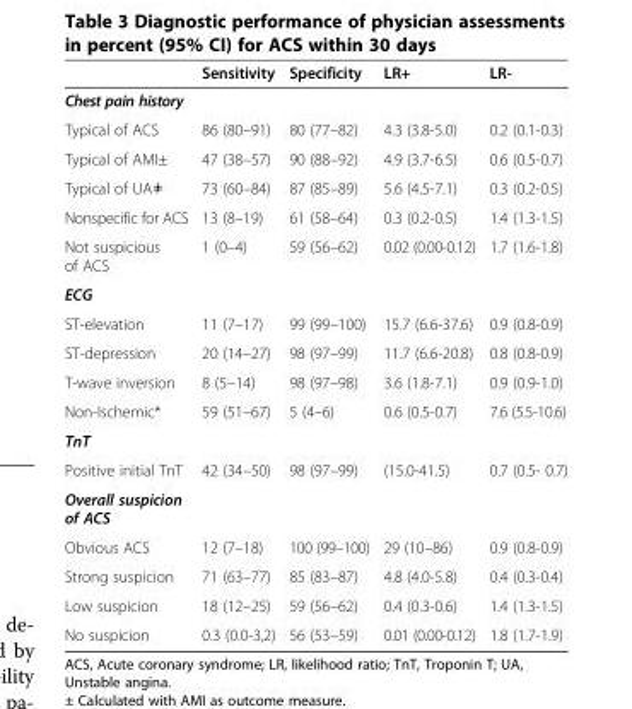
<table><thead><tr><td></td><td>Sensitivity</td><td>Specificity</td><td>LR+</td><td>LR-</td></tr></thead><tbody><tr><td colspan="5">Chest pain history</td></tr><tr><td>Typical of ACS</td><td>86 (80–91)</td><td>80 (77–82)</td><td>4.3 (3.8-5.0)</td><td>0.2 (0.1-0.3)</td></tr><tr><td>Typical of AMI±</td><td>47 (38–57)</td><td>90 (88–92)</td><td>4.9 (3.7-6.5)</td><td>0.6 (0.5-0.7)</td></tr><tr><td>Typical of UA≠</td><td>73 (60–84)</td><td>87 (85–89)</td><td>5.6 (4.5-7.1)</td><td>0.3 (0.2-0.5)</td></tr><tr><td>Nonspecific for ACS</td><td>13 (8–19)</td><td>61 (58–64)</td><td>0.3 (0.2-0.5)</td><td>1.4 (1.3-1.5)</td></tr><tr><td>Not suspicious of ACS</td><td>1 (0–4)</td><td>59 (56–62)</td><td>0.02 (0.00-0.12)</td><td>1.7 (1.6-1.8)</td></tr><tr><td colspan="5">ECG</td></tr><tr><td>ST-elevation</td><td>11 (7–17)</td><td>99 (99–100)</td><td>15.7 (6.6-37.6)</td><td>0.9 (0.8-0.9)</td></tr><tr><td>ST-depression</td><td>20 (14–27)</td><td>98 (97–99)</td><td>11.7 (6.6-20.8)</td><td>0.8 (0.8-0.9)</td></tr><tr><td>T-wave inversion</td><td>8 (5–14)</td><td>98 (97–98)</td><td>3.6 (1.8-7.1)</td><td>0.9 (0.9-1.0)</td></tr><tr><td>Non-Ischemic*</td><td>59 (51–67)</td><td>5 (4–6)</td><td>0.6 (0.5-0.7)</td><td>7.6 (5.5-10.6)</td></tr><tr><td colspan="5">TnT</td></tr><tr><td>Positive initial TnT</td><td>42 (34–50)</td><td>98 (97–99)</td><td>(15.0-41.5)</td><td>0.7 (0.5- 0.7)</td></tr><tr><td colspan="5">Overall suspicion of ACS</td></tr><tr><td>Obvious ACS</td><td>12 (7–18)</td><td>100 (99–100)</td><td>29 (10–86)</td><td>0.9 (0.8-0.9)</td></tr><tr><td>Strong suspicion</td><td>71 (63–77)</td><td>85 (83–87)</td><td>4.8 (4.0-5.8)</td><td>0.4 (0.3-0.4)</td></tr><tr><td>Low suspicion</td><td>18 (12–25)</td><td>59 (56–62)</td><td>0.4 (0.3-0.6)</td><td>1.4 (1.3-1.5)</td></tr><tr><td>No suspicion</td><td>0.3 (0.0-3,2)</td><td>56 (53–59)</td><td>0.01 (0.00-0.12)</td><td>1.8 (1.7-1.9)</td></tr></tbody></table>